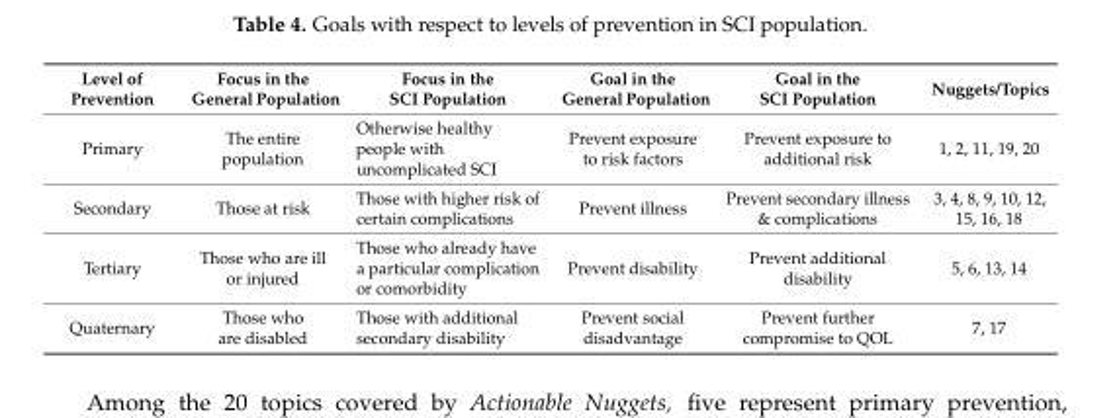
<table><thead><tr><td>Level of Prevention</td><td>Focus in the General Population</td><td>Focus in the SCI Population</td><td>Goal in the General Population</td><td>Goal in the SCI Population</td><td>Nuggets/Topics</td></tr></thead><tbody><tr><td>Primary</td><td>The entire population</td><td>Otherwise healthy people with uncomplicated SCI</td><td>Prevent exposure to risk factors</td><td>Prevent exposure to additional risk</td><td>1, 2, 11, 19, 20</td></tr><tr><td>Secondary</td><td>Those at risk</td><td>Those with higher risk of certain complications</td><td>Prevent illness</td><td>Prevent secondary illness &amp; complications</td><td>3, 4, 8, 9, 10, 12, 15, 16, 18</td></tr><tr><td>Tertiary</td><td>Those who are ill or injured</td><td>Those who already have a particular complication or comorbidity</td><td>Prevent disability</td><td>Prevent additional disability</td><td>5, 6, 13, 14</td></tr><tr><td>Quaternary</td><td>Those who are disabled</td><td>Those with additional secondary disability</td><td>Prevent social disadvantage</td><td>Prevent further compromise to QOL</td><td>7, 17</td></tr></tbody></table>